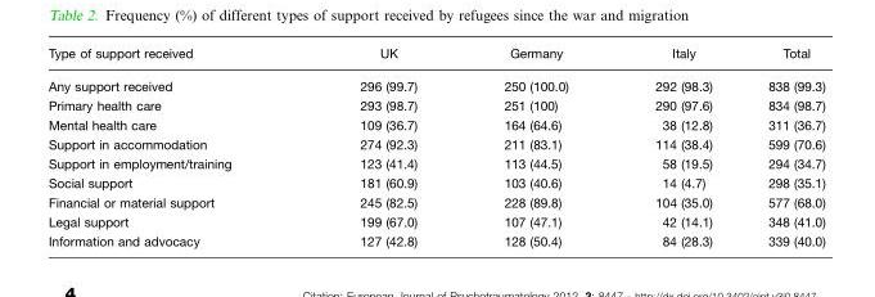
<table><thead><tr><td>Type of support received</td><td>UK</td><td>Germany</td><td>Italy</td><td>Total</td></tr></thead><tbody><tr><td>Any support received</td><td>296 (99.7)</td><td>250 (100.0)</td><td>292 (98.3)</td><td>838 (99.3)</td></tr><tr><td>Primary health care</td><td>293 (98.7)</td><td>251 (100)</td><td>290 (97.6)</td><td>834 (98.7)</td></tr><tr><td>Mental health care</td><td>109 (36.7)</td><td>164 (64.6)</td><td>38 (12.8)</td><td>311 (36.7)</td></tr><tr><td>Support in accommodation</td><td>274 (92.3)</td><td>211 (83.1)</td><td>114 (38.4)</td><td>599 (70.6)</td></tr><tr><td>Support in employment/training</td><td>123 (41.4)</td><td>113 (44.5)</td><td>58 (19.5)</td><td>294 (34.7)</td></tr><tr><td>Social support</td><td>181 (60.9)</td><td>103 (40.6)</td><td>14 (4.7)</td><td>298 (35.1)</td></tr><tr><td>Financial or material support</td><td>245 (82.5)</td><td>228 (89.8)</td><td>104 (35.0)</td><td>577 (68.0)</td></tr><tr><td>Legal support</td><td>199 (67.0)</td><td>107 (47.1)</td><td>42 (14.1)</td><td>348 (41.0)</td></tr><tr><td>Information and advocacy</td><td>127 (42.8)</td><td>128 (50.4)</td><td>84 (28.3)</td><td>339 (40.0)</td></tr></tbody></table>